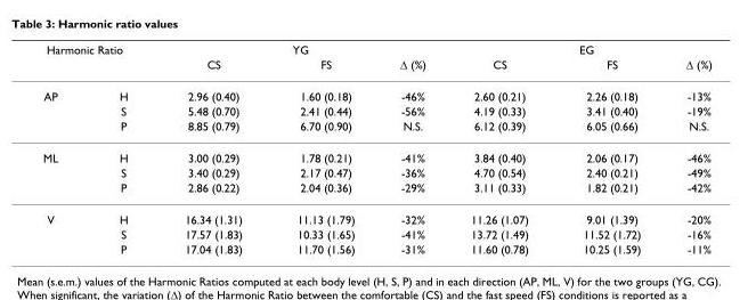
<table><thead><tr><td colspan="2">Harmonic Ratio</td><td colspan="3">YG</td><td colspan="3">EG</td></tr><tr><td></td><td></td><td>CS</td><td>FS</td><td>Δ (%)</td><td>CS</td><td>FS</td><td>Δ (%)</td></tr></thead><tbody><tr><td rowspan="3">AP</td><td>H</td><td>2.96 (0.40)</td><td>1.60 (0.18)</td><td>-46%</td><td>2.60 (0.21)</td><td>2.26 (0.18)</td><td>-13%</td></tr><tr><td>S</td><td>5.48 (0.70)</td><td>2.41 (0.44)</td><td>-56%</td><td>4.19 (0.33)</td><td>3.41 (0.40)</td><td>-19%</td></tr><tr><td>P</td><td>8.85 (0.79)</td><td>6.70 (0.90)</td><td>N.S.</td><td>6.12 (0.39)</td><td>6.05 (0.66)</td><td>N.S.</td></tr><tr><td rowspan="3">ML</td><td>H</td><td>3.00 (0.29)</td><td>1.78 (0.21)</td><td>-41%</td><td>3.84 (0.40)</td><td>2.06 (0.17)</td><td>-46%</td></tr><tr><td>S</td><td>3.40 (0.29)</td><td>2.17 (0.47)</td><td>-36%</td><td>4.70 (0.54)</td><td>2.40 (0.21)</td><td>-49%</td></tr><tr><td>P</td><td>2.86 (0.22)</td><td>2.04 (0.36)</td><td>-29%</td><td>3.11 (0.33)</td><td>1.82 (0.21)</td><td>-42%</td></tr><tr><td rowspan="3">V</td><td>H</td><td>16.34 (1.31)</td><td>11.13 (1.79)</td><td>-32%</td><td>11.26 (1.07)</td><td>9.01 (1.39)</td><td>-20%</td></tr><tr><td>S</td><td>17.57 (1.83)</td><td>10.33 (1.65)</td><td>-41%</td><td>13.72 (1.49)</td><td>11.52 (1.72)</td><td>-16%</td></tr><tr><td>P</td><td>17.04 (1.83)</td><td>11.70 (1.56)</td><td>-31%</td><td>11.60 (0.78)</td><td>10.25 (1.59)</td><td>-11%</td></tr></tbody></table>